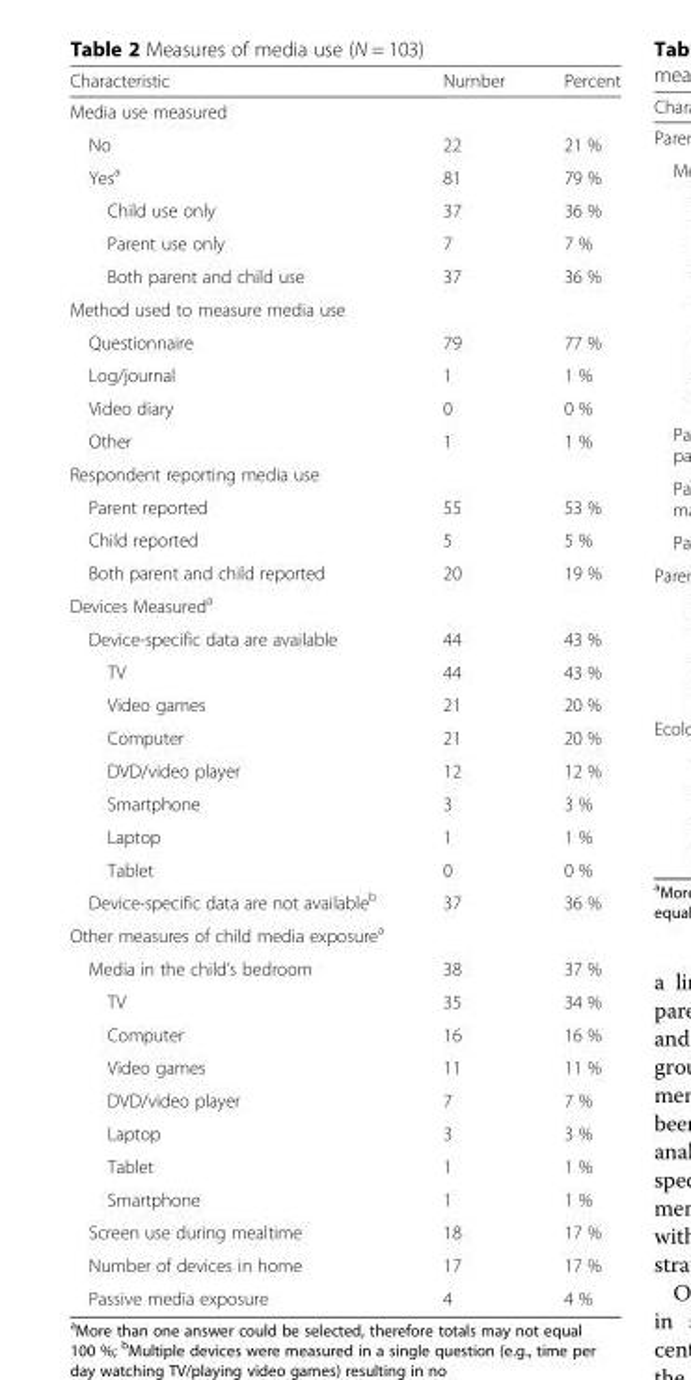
<table><thead><tr><td>Characteristic</td><td>Number</td><td>Percent</td></tr></thead><tbody><tr><td colspan="3">Media use measured</td></tr><tr><td>No</td><td>22</td><td>21 %</td></tr><tr><td>Yes<sup>a</sup></td><td>81</td><td>79 %</td></tr><tr><td>Child use only</td><td>37</td><td>36 %</td></tr><tr><td>Parent use only</td><td>7</td><td>7 %</td></tr><tr><td>Both parent and child use</td><td>37</td><td>36 %</td></tr><tr><td colspan="3">Method used to measure media use</td></tr><tr><td>Questionnaire</td><td>79</td><td>77 %</td></tr><tr><td>Log/journal</td><td>1</td><td>1 %</td></tr><tr><td>Video diary</td><td>0</td><td>0 %</td></tr><tr><td>Other</td><td>1</td><td>1 %</td></tr><tr><td colspan="3">Respondent reporting media use</td></tr><tr><td>Parent reported</td><td>55</td><td>53 %</td></tr><tr><td>Child reported</td><td>5</td><td>5 %</td></tr><tr><td>Both parent and child reported</td><td>20</td><td>19 %</td></tr><tr><td colspan="3">Devices Measured<sup>a</sup></td></tr><tr><td>Device-specific data are available</td><td>44</td><td>43 %</td></tr><tr><td>TV</td><td>44</td><td>43 %</td></tr><tr><td>Video games</td><td>21</td><td>20 %</td></tr><tr><td>Computer</td><td>21</td><td>20 %</td></tr><tr><td>DVD/video player</td><td>12</td><td>12 %</td></tr><tr><td>Smartphone</td><td>3</td><td>3 %</td></tr><tr><td>Laptop</td><td>1</td><td>1 %</td></tr><tr><td>Tablet</td><td>0</td><td>0 %</td></tr><tr><td>Device-specific data are not available<sup>b</sup></td><td>37</td><td>36 %</td></tr><tr><td colspan="3">Other measures of child media exposure<sup>a</sup></td></tr><tr><td>Media in the child’s bedroom</td><td>38</td><td>37 %</td></tr><tr><td>TV</td><td>35</td><td>34 %</td></tr><tr><td>Computer</td><td>16</td><td>16 %</td></tr><tr><td>Video games</td><td>11</td><td>11 %</td></tr><tr><td>DVD/video player</td><td>7</td><td>7 %</td></tr><tr><td>Laptop</td><td>3</td><td>3 %</td></tr><tr><td>Tablet</td><td>1</td><td>1 %</td></tr><tr><td>Smartphone</td><td>1</td><td>1 %</td></tr><tr><td>Screen use during mealtime</td><td>18</td><td>17 %</td></tr><tr><td>Number of devices in home</td><td>17</td><td>17 %</td></tr><tr><td>Passive media exposure</td><td>4</td><td>4 %</td></tr></tbody></table>